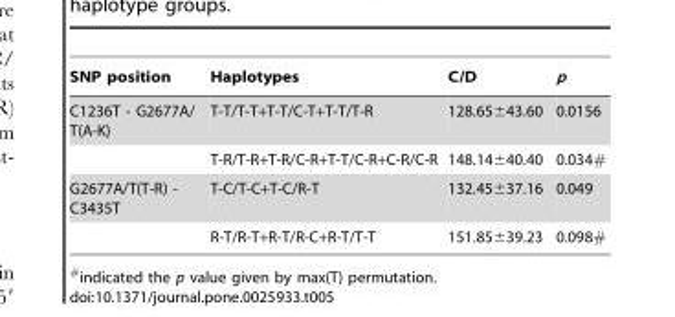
<table><thead><tr><td>SNP position</td><td>Haplotypes</td><td>C/D</td><td>p</td></tr></thead><tbody><tr><td rowspan="2">C1236T - G2677A/ T(A-K)</td><td>T-T/T-T+T-T/C-T+T-T/T-R</td><td>128.65±43.60</td><td>0.0156</td></tr><tr><td>T-R/T-R+T-R/C-R+T-T/C-R+C-R/C-R</td><td>148.14±40.40</td><td>0.034#</td></tr><tr><td rowspan="2">G2677A/T(T-R) - C3435T</td><td>T-C/T-C+T-C/R-T</td><td>132.45±37.16</td><td>0.049</td></tr><tr><td>R-T/R-T+R-T/R-C+R-T/T-T</td><td>151.85±39.23</td><td>0.098#</td></tr></tbody></table>